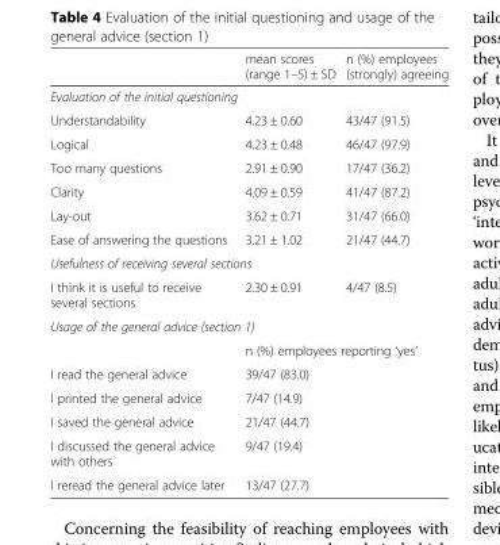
<table><thead><tr><td></td><td>mean scores (range 1–5) ± SD</td><td>n (%) employees (strongly) agreeing</td></tr></thead><tbody><tr><td colspan="3">Evaluation of the initial questioning</td></tr><tr><td>Understandability</td><td>4.23 ± 0.60</td><td>43/47 (91.5)</td></tr><tr><td>Logical</td><td>4.23 ± 0.48</td><td>46/47 (97.9)</td></tr><tr><td>Too many questions</td><td>2.91 ± 0.90</td><td>17/47 (36.2)</td></tr><tr><td>Clarity</td><td>4.09 ± 0.59</td><td>41/47 (87.2)</td></tr><tr><td>Lay-out</td><td>3.62 ± 0.71</td><td>31/47 (66.0)</td></tr><tr><td>Ease of answering the questions</td><td>3.21 ± 1.02</td><td>21/47 (44.7)</td></tr><tr><td colspan="3">Usefulness of receiving several sections</td></tr><tr><td>I think it is useful to receive several sections</td><td>2.30 ± 0.91</td><td>4/47 (8.5)</td></tr><tr><td colspan="3">Usage of the general advice (section 1)</td></tr><tr><td></td><td colspan="2">n (%) employees reporting ‘yes’</td></tr><tr><td>I read the general advice</td><td colspan="2">39/47 (83.0)</td></tr><tr><td>I printed the general advice</td><td colspan="2">7/47 (14.9)</td></tr><tr><td>I saved the general advice</td><td colspan="2">21/47 (44.7)</td></tr><tr><td>I discussed the general advice with others</td><td colspan="2">9/47 (19.4)</td></tr><tr><td>I reread the general advice later</td><td colspan="2">13/47 (27.7)</td></tr></tbody></table>